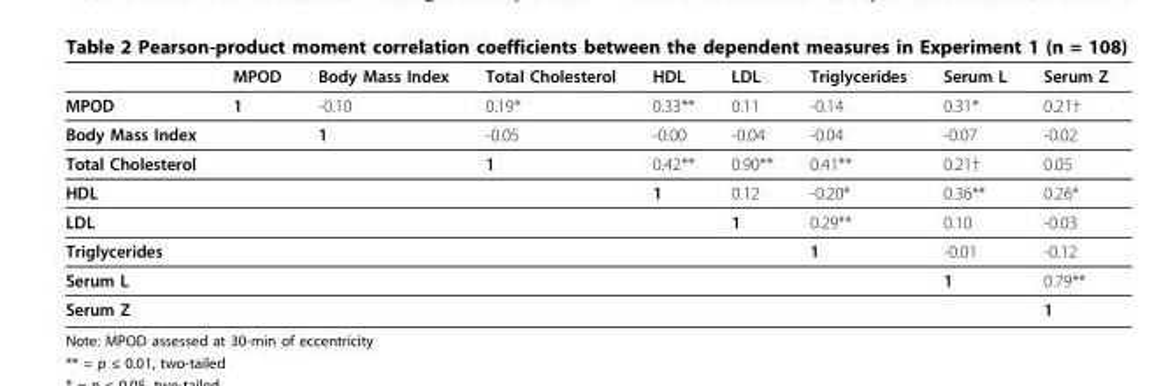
<table><thead><tr><td></td><td>MPOD</td><td>Body Mass Index</td><td>Total Cholesterol</td><td>HDL</td><td>LDL</td><td>Triglycerides</td><td>Serum L</td><td>Serum Z</td></tr></thead><tbody><tr><td>MPOD</td><td>1</td><td>-0.10</td><td>0.19*</td><td>0.33**</td><td>0.11</td><td>-0.14</td><td>0.31*</td><td>0.21†</td></tr><tr><td>Body Mass Index</td><td></td><td>1</td><td>-0.05</td><td>-0.00</td><td>-0.04</td><td>-0.04</td><td>-0.07</td><td>-0.02</td></tr><tr><td>Total Cholesterol</td><td></td><td></td><td>1</td><td>0.42**</td><td>0.90**</td><td>0.41**</td><td>0.21†</td><td>0.05</td></tr><tr><td>HDL</td><td></td><td></td><td></td><td>1</td><td>0.12</td><td>-0.20*</td><td>0.36**</td><td>0.26*</td></tr><tr><td>LDL</td><td></td><td></td><td></td><td></td><td>1</td><td>0.29**</td><td>0.10</td><td>-0.03</td></tr><tr><td>Triglycerides</td><td></td><td></td><td></td><td></td><td></td><td>1</td><td>-0.01</td><td>-0.12</td></tr><tr><td>Serum L</td><td></td><td></td><td></td><td></td><td></td><td></td><td>1</td><td>0.79**</td></tr><tr><td>Serum Z</td><td></td><td></td><td></td><td></td><td></td><td></td><td></td><td>1</td></tr></tbody></table>